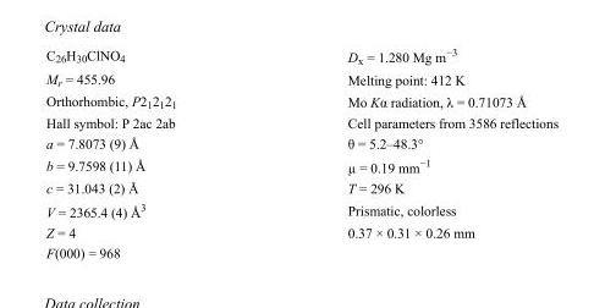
<table><tbody><tr><td>C<sub>26</sub>H<sub>30</sub>ClNO<sub>4</sub></td><td>D<sub>x</sub> = 1.280 Mg m<sup>−3</sup></td></tr><tr><td>M<sub>r</sub> = 455.96</td><td>Melting point: 412 K</td></tr><tr><td>Orthorhombic, P2<sub>1</sub>2<sub>1</sub>2<sub>1</sub></td><td>Mo Kα radiation, λ = 0.71073 Å</td></tr><tr><td>Hall symbol: P 2ac 2ab</td><td>Cell parameters from 3586 reflections</td></tr><tr><td>a = 7.8073 (9) Å</td><td>θ = 5.2–48.3°</td></tr><tr><td>b = 9.7598 (11) Å</td><td>µ = 0.19 mm<sup>−1</sup></td></tr><tr><td>c = 31.043 (2) Å</td><td>T = 296 K</td></tr><tr><td>V = 2365.4 (4) Å<sup>3</sup></td><td>Prismatic, colorless</td></tr><tr><td>Z = 4</td><td>0.37 × 0.31 × 0.26 mm</td></tr><tr><td>F(000) = 968</td><td></td></tr></tbody></table>